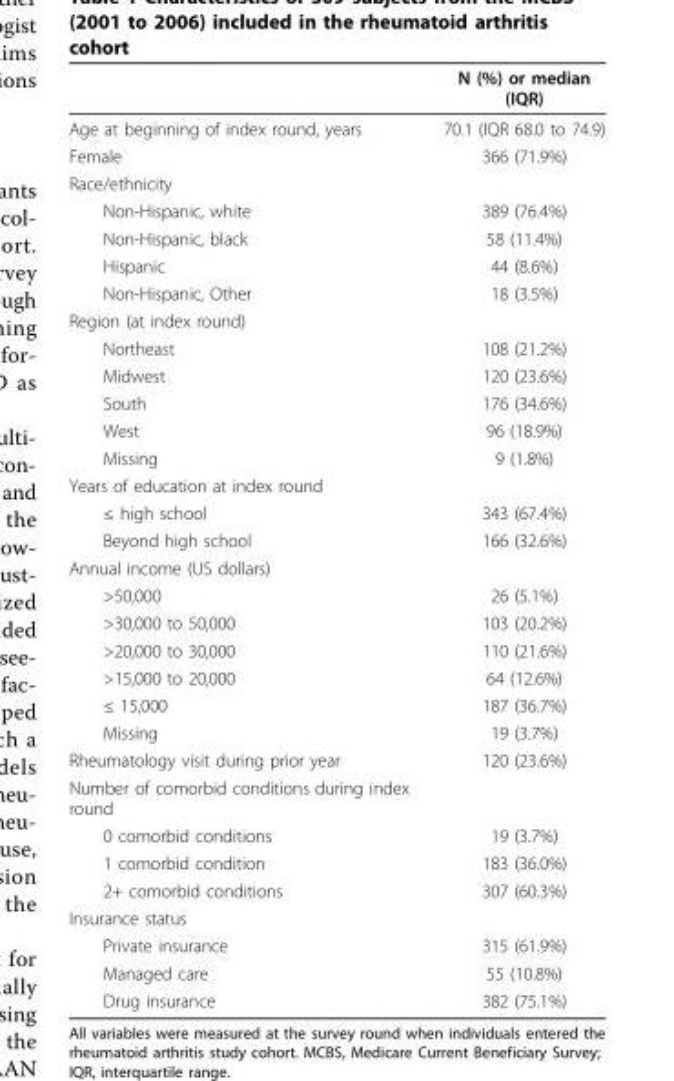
<table><thead><tr><td></td><td>N (%) or median (IQR)</td></tr></thead><tbody><tr><td>Age at beginning of index round, years</td><td>70.1 (IQR 68.0 to 74.9)</td></tr><tr><td>Female</td><td>366 (71.9%)</td></tr><tr><td colspan="2">Race/ethnicity</td></tr><tr><td>Non-Hispanic, white</td><td>389 (76.4%)</td></tr><tr><td>Non-Hispanic, black</td><td>58 (11.4%)</td></tr><tr><td>Hispanic</td><td>44 (8.6%)</td></tr><tr><td>Non-Hispanic, Other</td><td>18 (3.5%)</td></tr><tr><td colspan="2">Region (at index round)</td></tr><tr><td>Northeast</td><td>108 (21.2%)</td></tr><tr><td>Midwest</td><td>120 (23.6%)</td></tr><tr><td>South</td><td>176 (34.6%)</td></tr><tr><td>West</td><td>96 (18.9%)</td></tr><tr><td>Missing</td><td>9 (1.8%)</td></tr><tr><td colspan="2">Years of education at index round</td></tr><tr><td>≤ high school</td><td>343 (67.4%)</td></tr><tr><td>Beyond high school</td><td>166 (32.6%)</td></tr><tr><td colspan="2">Annual income (US dollars)</td></tr><tr><td>&gt;50,000</td><td>26 (5.1%)</td></tr><tr><td>&gt;30,000 to 50,000</td><td>103 (20.2%)</td></tr><tr><td>&gt;20,000 to 30,000</td><td>110 (21.6%)</td></tr><tr><td>&gt;15,000 to 20,000</td><td>64 (12.6%)</td></tr><tr><td>≤ 15,000</td><td>187 (36.7%)</td></tr><tr><td>Missing</td><td>19 (3.7%)</td></tr><tr><td>Rheumatology visit during prior year</td><td>120 (23.6%)</td></tr><tr><td colspan="2">Number of comorbid conditions during index round</td></tr><tr><td>0 comorbid conditions</td><td>19 (3.7%)</td></tr><tr><td>1 comorbid condition</td><td>183 (36.0%)</td></tr><tr><td>2+ comorbid conditions</td><td>307 (60.3%)</td></tr><tr><td colspan="2">Insurance status</td></tr><tr><td>Private insurance</td><td>315 (61.9%)</td></tr><tr><td>Managed care</td><td>55 (10.8%)</td></tr><tr><td>Drug insurance</td><td>382 (75.1%)</td></tr></tbody></table>